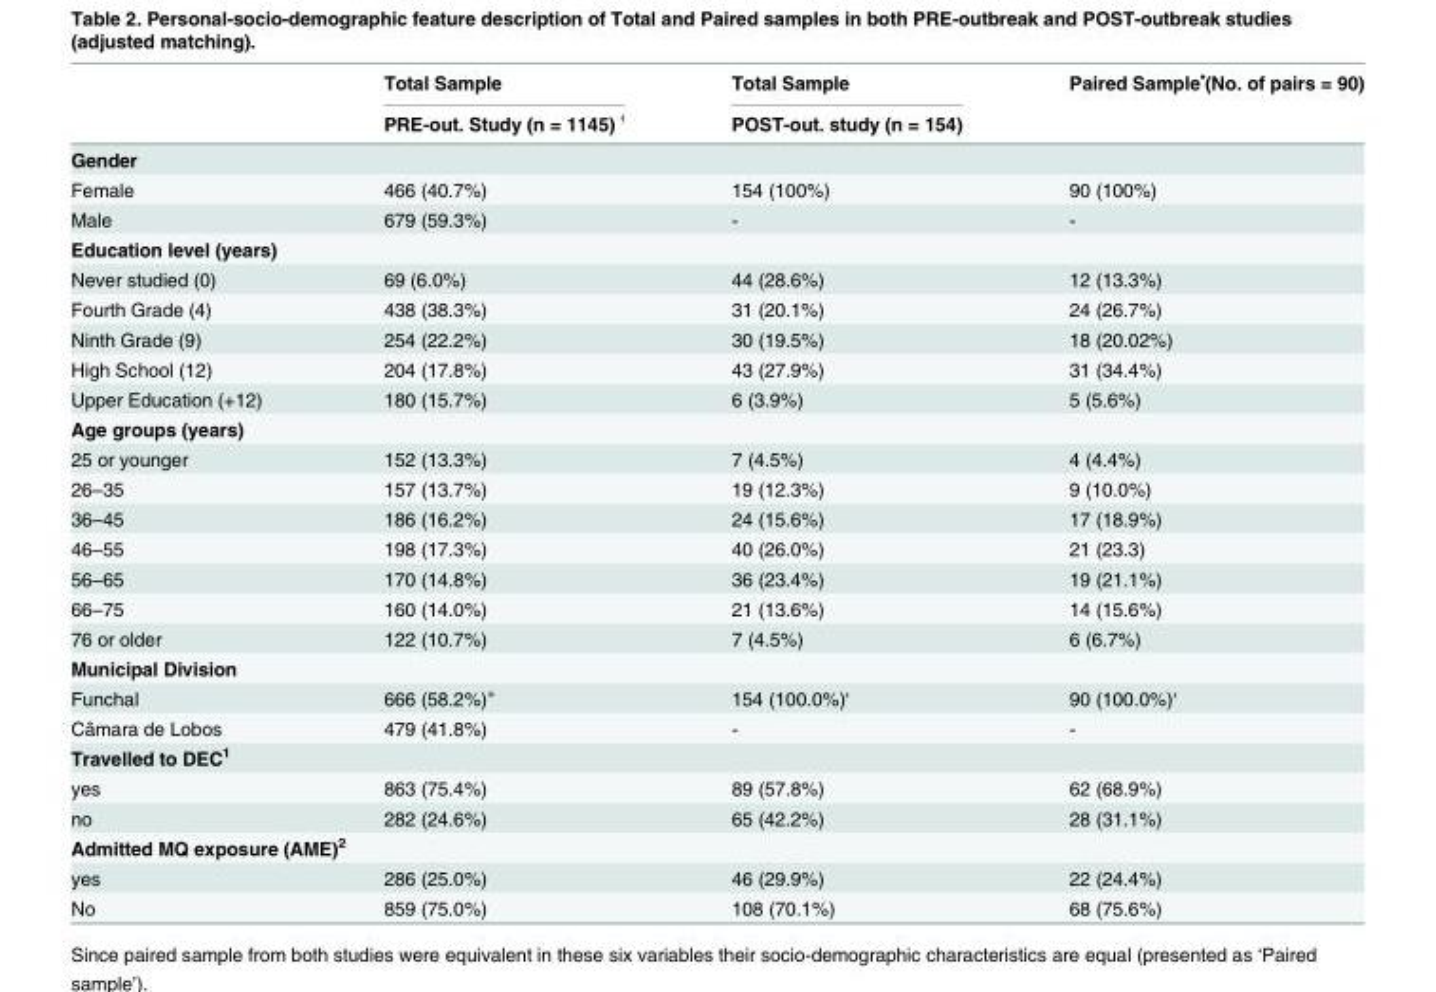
<table><thead><tr><td rowspan="2"></td><td rowspan="2">Total Sample PRE-out. Study (n = 1145) <sup>ⱡ</sup></td><td rowspan="2">Total Sample POST-out. study (n = 154)</td><td rowspan="2">Paired Sample<sup>•</sup>(No. of pairs = 90)</td></tr><tr></tr></thead><tbody><tr><td colspan="4">Gender</td></tr><tr><td>Female</td><td>466 (40.7%)</td><td>154 (100%)</td><td>90 (100%)</td></tr><tr><td>Male</td><td>679 (59.3%)</td><td>-</td><td>-</td></tr><tr><td colspan="4">Education level (years)</td></tr><tr><td>Never studied (0)</td><td>69 (6.0%)</td><td>44 (28.6%)</td><td>12 (13.3%)</td></tr><tr><td>Fourth Grade (4)</td><td>438 (38.3%)</td><td>31 (20.1%)</td><td>24 (26.7%)</td></tr><tr><td>Ninth Grade (9)</td><td>254 (22.2%)</td><td>30 (19.5%)</td><td>18 (20.02%)</td></tr><tr><td>High School (12)</td><td>204 (17.8%)</td><td>43 (27.9%)</td><td>31 (34.4%)</td></tr><tr><td>Upper Education (+12)</td><td>180 (15.7%)</td><td>6 (3.9%)</td><td>5 (5.6%)</td></tr><tr><td colspan="4">Age groups (years)</td></tr><tr><td>25 or younger</td><td>152 (13.3%)</td><td>7 (4.5%)</td><td>4 (4.4%)</td></tr><tr><td>26–35</td><td>157 (13.7%)</td><td>19 (12.3%)</td><td>9 (10.0%)</td></tr><tr><td>36–45</td><td>186 (16.2%)</td><td>24 (15.6%)</td><td>17 (18.9%)</td></tr><tr><td>46–55</td><td>198 (17.3%)</td><td>40 (26.0%)</td><td>21 (23.3)</td></tr><tr><td>56–65</td><td>170 (14.8%)</td><td>36 (23.4%)</td><td>19 (21.1%)</td></tr><tr><td>66–75</td><td>160 (14.0%)</td><td>21 (13.6%)</td><td>14 (15.6%)</td></tr><tr><td>76 or older</td><td>122 (10.7%)</td><td>7 (4.5%)</td><td>6 (6.7%)</td></tr><tr><td colspan="4">Municipal Division</td></tr><tr><td>Funchal</td><td>666 (58.2%)<sup>+</sup></td><td>154 (100.0%)‘</td><td>90 (100.0%)‘</td></tr><tr><td>Câmara de Lobos</td><td>479 (41.8%)</td><td>-</td><td>-</td></tr><tr><td colspan="4">Travelled to DEC<sup>1</sup></td></tr><tr><td>yes</td><td>863 (75.4%)</td><td>89 (57.8%)</td><td>62 (68.9%)</td></tr><tr><td>no</td><td>282 (24.6%)</td><td>65 (42.2%)</td><td>28 (31.1%)</td></tr><tr><td colspan="4">Admitted MQ exposure (AME)<sup>2</sup></td></tr><tr><td>yes</td><td>286 (25.0%)</td><td>46 (29.9%)</td><td>22 (24.4%)</td></tr><tr><td>No</td><td>859 (75.0%)</td><td>108 (70.1%)</td><td>68 (75.6%)</td></tr></tbody></table>